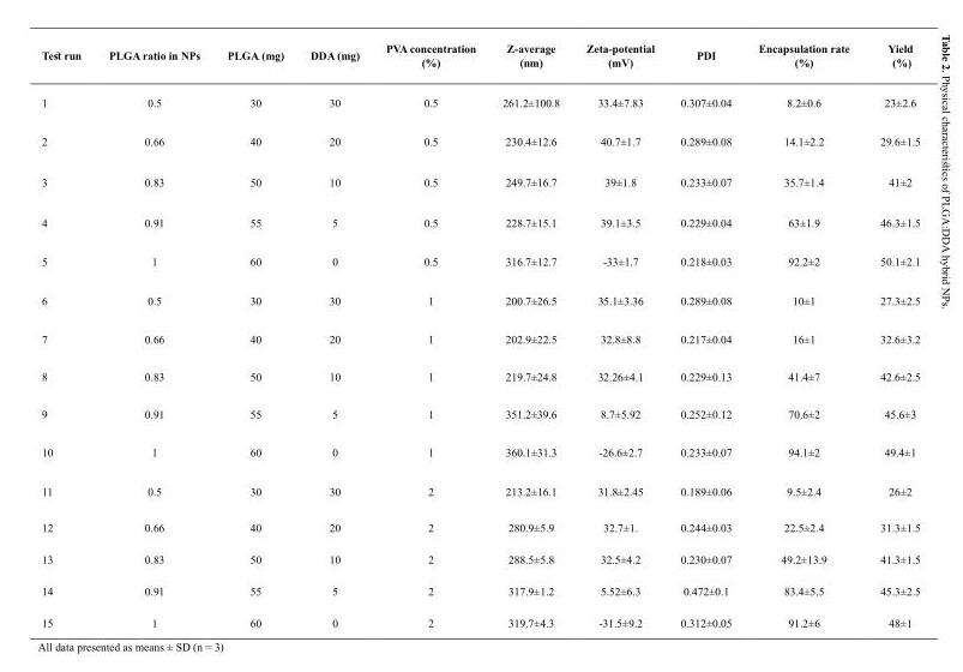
<table><thead><tr><td>Test run</td><td>PLGA ratio in NPs</td><td>PLGA (mg)</td><td>DDA (mg)</td><td>PVA concentration (%)</td><td>Z-average (nm)</td><td>Zeta-potential (mV)</td><td>PDI</td><td>Encapsulation rate (%)</td><td>Yield (%)</td></tr></thead><tbody><tr><td>1</td><td>0.5</td><td>30</td><td>30</td><td>0.5</td><td>261.2±100.8</td><td>33.4±7.83</td><td>0.307±0.04</td><td>8.2±0.6</td><td>23±2.6</td></tr><tr><td>2</td><td>0.66</td><td>40</td><td>20</td><td>0.5</td><td>230.4±12.6</td><td>40.7±1.7</td><td>0.289±0.08</td><td>14.1±2.2</td><td>29.6±1.5</td></tr><tr><td>3</td><td>0.83</td><td>50</td><td>10</td><td>0.5</td><td>249.7±16.7</td><td>39±1.8</td><td>0.233±0.07</td><td>35.7±1.4</td><td>41±2</td></tr><tr><td>4</td><td>0.91</td><td>55</td><td>5</td><td>0.5</td><td>228.7±15.1</td><td>39.1±3.5</td><td>0.229±0.04</td><td>63±1.9</td><td>46.3±1.5</td></tr><tr><td>5</td><td>1</td><td>60</td><td>0</td><td>0.5</td><td>316.7±12.7</td><td>-33±1.7</td><td>0.218±0.03</td><td>92.2±2</td><td>50.1±2.1</td></tr><tr><td>6</td><td>0.5</td><td>30</td><td>30</td><td>1</td><td>200.7±26.5</td><td>35.1±3.36</td><td>0.289±0.08</td><td>10±1</td><td>27.3±2.5</td></tr><tr><td>7</td><td>0.66</td><td>40</td><td>20</td><td>1</td><td>202.9±22.5</td><td>32.8±8.8</td><td>0.217±0.04</td><td>16±1</td><td>32.6±3.2</td></tr><tr><td>8</td><td>0.83</td><td>50</td><td>10</td><td>1</td><td>219.7±24.8</td><td>32.26±4.1</td><td>0.229±0.13</td><td>41.4±7</td><td>42.6±2.5</td></tr><tr><td>9</td><td>0.91</td><td>55</td><td>5</td><td>1</td><td>351.2±39.6</td><td>8.7±5.92</td><td>0.252±0.12</td><td>70.6±2</td><td>45.6±3</td></tr><tr><td>10</td><td>1</td><td>60</td><td>0</td><td>1</td><td>360.1±31.3</td><td>-26.6±2.7</td><td>0.233±0.07</td><td>94.1±2</td><td>49.4±1</td></tr><tr><td>11</td><td>0.5</td><td>30</td><td>30</td><td>2</td><td>213.2±16.1</td><td>31.8±2.45</td><td>0.189±0.06</td><td>9.5±2.4</td><td>26±2</td></tr><tr><td>12</td><td>0.66</td><td>40</td><td>20</td><td>2</td><td>280.9±5.9</td><td>32.7±1.</td><td>0.244±0.03</td><td>22.5±2.4</td><td>31.3±1.5</td></tr><tr><td>13</td><td>0.83</td><td>50</td><td>10</td><td>2</td><td>288.5±5.8</td><td>32.5±4.2</td><td>0.230±0.07</td><td>49.2±13.9</td><td>41.3±1.5</td></tr><tr><td>14</td><td>0.91</td><td>55</td><td>5</td><td>2</td><td>317.9±1.2</td><td>5.52±6.3</td><td>0.472±0.1</td><td>83.4±5.5</td><td>45.3±2.5</td></tr><tr><td>15</td><td>1</td><td>60</td><td>0</td><td>2</td><td>319.7±4.3</td><td>-31.5±9.2</td><td>0.312±0.05</td><td>91.2±6</td><td>48±1</td></tr></tbody></table>